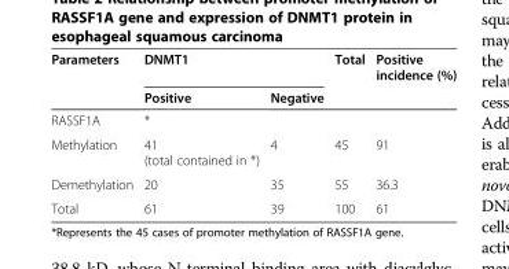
<table><thead><tr><td rowspan="2">Parameters</td><td colspan="2">DNMT1</td><td rowspan="2">Total</td><td rowspan="2">Positive incidence (%)</td></tr><tr><td>Positive</td><td>Negative</td></tr></thead><tbody><tr><td>RASSF1A</td><td>*</td><td></td><td></td><td></td></tr><tr><td>Methylation</td><td>41 (total contained in *)</td><td>4</td><td>45</td><td>91</td></tr><tr><td>Demethylation</td><td>20</td><td>35</td><td>55</td><td>36.3</td></tr><tr><td>Total</td><td>61</td><td>39</td><td>100</td><td>61</td></tr></tbody></table>